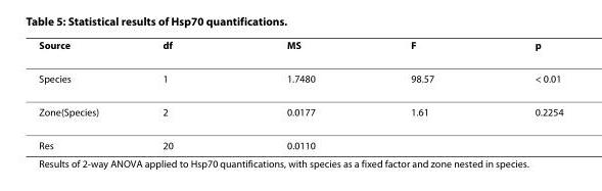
<table><thead><tr><td>Source</td><td>df</td><td>MS</td><td>F</td><td>p</td></tr></thead><tbody><tr><td>Species</td><td>1</td><td>1.7480</td><td>98.57</td><td>&lt; 0.01</td></tr><tr><td>Zone(Species)</td><td>2</td><td>0.0177</td><td>1.61</td><td>0.2254</td></tr><tr><td>Res</td><td>20</td><td>0.0110</td><td></td><td></td></tr></tbody></table>